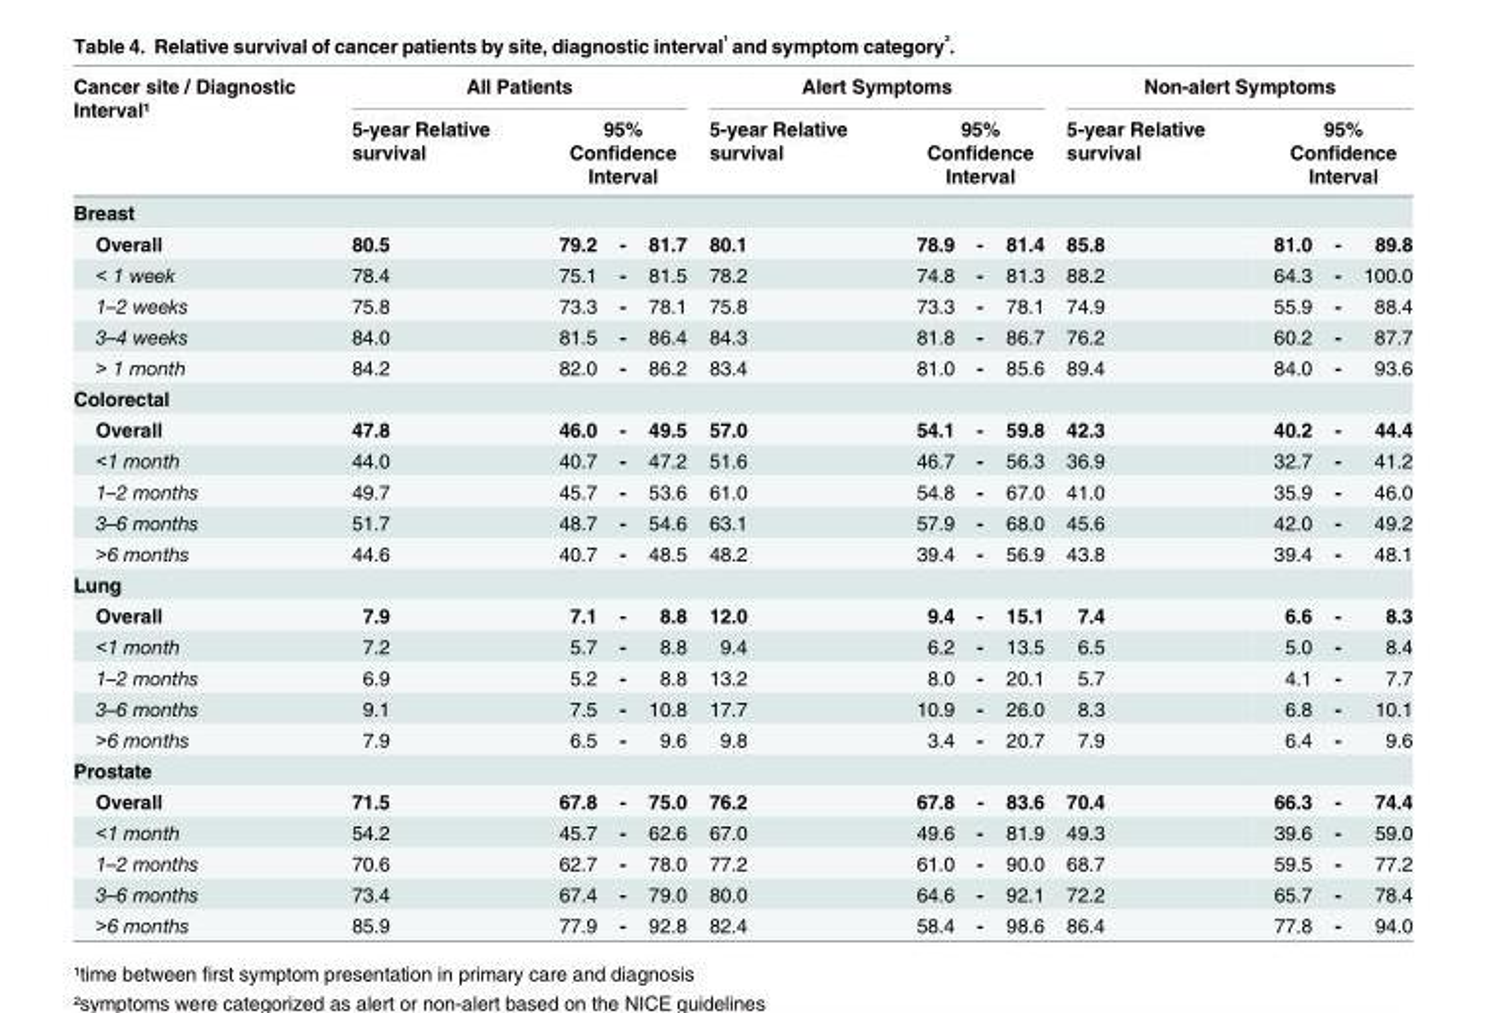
<table><thead><tr><td rowspan="2">Cancer site / Diagnostic Interval¹</td><td colspan="4">All Patients</td><td colspan="4">Alert Symptoms</td><td colspan="4">Non-alert Symptoms</td></tr><tr><td>5-year Relative survival</td><td colspan="3">95% Confidence Interval</td><td>5-year Relative survival</td><td colspan="3">95% Confidence Interval</td><td>5-year Relative survival</td><td colspan="3">95% Confidence Interval</td></tr><tr><td colspan="13">Breast</td></tr><tr><td>Overall</td><td>80.5</td><td>79.2</td><td>-</td><td>81.7</td><td>80.1</td><td>78.9</td><td>-</td><td>81.4</td><td>85.8</td><td>81.0</td><td>-</td><td>89.8</td></tr></thead><tbody><tr><td>&lt; 1 week</td><td>78.4</td><td>75.1</td><td>-</td><td>81.5</td><td>78.2</td><td>74.8</td><td>-</td><td>81.3</td><td>88.2</td><td>64.3</td><td>-</td><td>100.0</td></tr><tr><td>1–2 weeks</td><td>75.8</td><td>73.3</td><td>-</td><td>78.1</td><td>75.8</td><td>73.3</td><td>-</td><td>78.1</td><td>74.9</td><td>55.9</td><td>-</td><td>88.4</td></tr><tr><td>3–4 weeks</td><td>84.0</td><td>81.5</td><td>-</td><td>86.4</td><td>84.3</td><td>81.8</td><td>-</td><td>86.7</td><td>76.2</td><td>60.2</td><td>-</td><td>87.7</td></tr><tr><td>&gt; 1 month</td><td>84.2</td><td>82.0</td><td>-</td><td>86.2</td><td>83.4</td><td>81.0</td><td>-</td><td>85.6</td><td>89.4</td><td>84.0</td><td>-</td><td>93.6</td></tr><tr><td colspan="13">Colorectal</td></tr><tr><td>Overall</td><td>47.8</td><td>46.0</td><td>-</td><td>49.5</td><td>57.0</td><td>54.1</td><td>-</td><td>59.8</td><td>42.3</td><td>40.2</td><td>-</td><td>44.4</td></tr><tr><td>&lt;1 month</td><td>44.0</td><td>40.7</td><td>-</td><td>47.2</td><td>51.6</td><td>46.7</td><td>-</td><td>56.3</td><td>36.9</td><td>32.7</td><td>-</td><td>41.2</td></tr><tr><td>1–2 months</td><td>49.7</td><td>45.7</td><td>-</td><td>53.6</td><td>61.0</td><td>54.8</td><td>-</td><td>67.0</td><td>41.0</td><td>35.9</td><td>-</td><td>46.0</td></tr><tr><td>3–6 months</td><td>51.7</td><td>48.7</td><td>-</td><td>54.6</td><td>63.1</td><td>57.9</td><td>-</td><td>68.0</td><td>45.6</td><td>42.0</td><td>-</td><td>49.2</td></tr><tr><td>&gt;6 months</td><td>44.6</td><td>40.7</td><td>-</td><td>48.5</td><td>48.2</td><td>39.4</td><td>-</td><td>56.9</td><td>43.8</td><td>39.4</td><td>-</td><td>48.1</td></tr><tr><td colspan="13">Lung</td></tr><tr><td>Overall</td><td>7.9</td><td>7.1</td><td>-</td><td>8.8</td><td>12.0</td><td>9.4</td><td>-</td><td>15.1</td><td>7.4</td><td>6.6</td><td>-</td><td>8.3</td></tr><tr><td>&lt;1 month</td><td>7.2</td><td>5.7</td><td>-</td><td>8.8</td><td>9.4</td><td>6.2</td><td>-</td><td>13.5</td><td>6.5</td><td>5.0</td><td>-</td><td>8.4</td></tr><tr><td>1–2 months</td><td>6.9</td><td>5.2</td><td>-</td><td>8.8</td><td>13.2</td><td>8.0</td><td>-</td><td>20.1</td><td>5.7</td><td>4.1</td><td>-</td><td>7.7</td></tr><tr><td>3–6 months</td><td>9.1</td><td>7.5</td><td>-</td><td>10.8</td><td>17.7</td><td>10.9</td><td>-</td><td>26.0</td><td>8.3</td><td>6.8</td><td>-</td><td>10.1</td></tr><tr><td>&gt;6 months</td><td>7.9</td><td>6.5</td><td>-</td><td>9.6</td><td>9.8</td><td>3.4</td><td>-</td><td>20.7</td><td>7.9</td><td>6.4</td><td>-</td><td>9.6</td></tr><tr><td colspan="13">Prostate</td></tr><tr><td>Overall</td><td>71.5</td><td>67.8</td><td>-</td><td>75.0</td><td>76.2</td><td>67.8</td><td>-</td><td>83.6</td><td>70.4</td><td>66.3</td><td>-</td><td>74.4</td></tr><tr><td>&lt;1 month</td><td>54.2</td><td>45.7</td><td>-</td><td>62.6</td><td>67.0</td><td>49.6</td><td>-</td><td>81.9</td><td>49.3</td><td>39.6</td><td>-</td><td>59.0</td></tr><tr><td>1–2 months</td><td>70.6</td><td>62.7</td><td>-</td><td>78.0</td><td>77.2</td><td>61.0</td><td>-</td><td>90.0</td><td>68.7</td><td>59.5</td><td>-</td><td>77.2</td></tr><tr><td>3–6 months</td><td>73.4</td><td>67.4</td><td>-</td><td>79.0</td><td>80.0</td><td>64.6</td><td>-</td><td>92.1</td><td>72.2</td><td>65.7</td><td>-</td><td>78.4</td></tr><tr><td>&gt;6 months</td><td>85.9</td><td>77.9</td><td>-</td><td>92.8</td><td>82.4</td><td>58.4</td><td>-</td><td>98.6</td><td>86.4</td><td>77.8</td><td>-</td><td>94.0</td></tr></tbody></table>